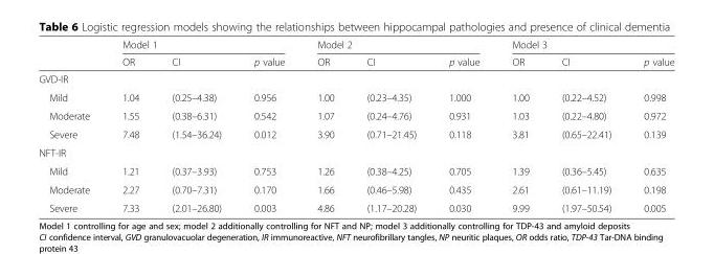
<table><thead><tr><td rowspan="2"></td><td colspan="3">Model 1</td><td colspan="3">Model 2</td><td colspan="3">Model 3</td></tr><tr><td>OR</td><td>CI</td><td>p value</td><td>OR</td><td>CI</td><td>p value</td><td>OR</td><td>CI</td><td>p value</td></tr></thead><tbody><tr><td colspan="10">GVD-IR</td></tr><tr><td>Mild</td><td>1.04</td><td>(0.25–4.38)</td><td>0.956</td><td>1.00</td><td>(0.23–4.35)</td><td>1.000</td><td>1.00</td><td>(0.22–4.52)</td><td>0.998</td></tr><tr><td>Moderate</td><td>1.55</td><td>(0.38–6.31)</td><td>0.542</td><td>1.07</td><td>(0.24–4.76)</td><td>0.931</td><td>1.03</td><td>(0.22–4.80)</td><td>0.972</td></tr><tr><td>Severe</td><td>7.48</td><td>(1.54–36.24)</td><td>0.012</td><td>3.90</td><td>(0.71–21.45)</td><td>0.118</td><td>3.81</td><td>(0.65–22.41)</td><td>0.139</td></tr><tr><td colspan="10">NFT-IR</td></tr><tr><td>Mild</td><td>1.21</td><td>(0.37–3.93)</td><td>0.753</td><td>1.26</td><td>(0.38–4.25)</td><td>0.705</td><td>1.39</td><td>(0.36–5.45)</td><td>0.635</td></tr><tr><td>Moderate</td><td>2.27</td><td>(0.70–7.31)</td><td>0.170</td><td>1.66</td><td>(0.46–5.98)</td><td>0.435</td><td>2.61</td><td>(0.61–11.19)</td><td>0.198</td></tr><tr><td>Severe</td><td>7.33</td><td>(2.01–26.80)</td><td>0.003</td><td>4.86</td><td>(1.17–20.28)</td><td>0.030</td><td>9.99</td><td>(1.97–50.54)</td><td>0.005</td></tr></tbody></table>